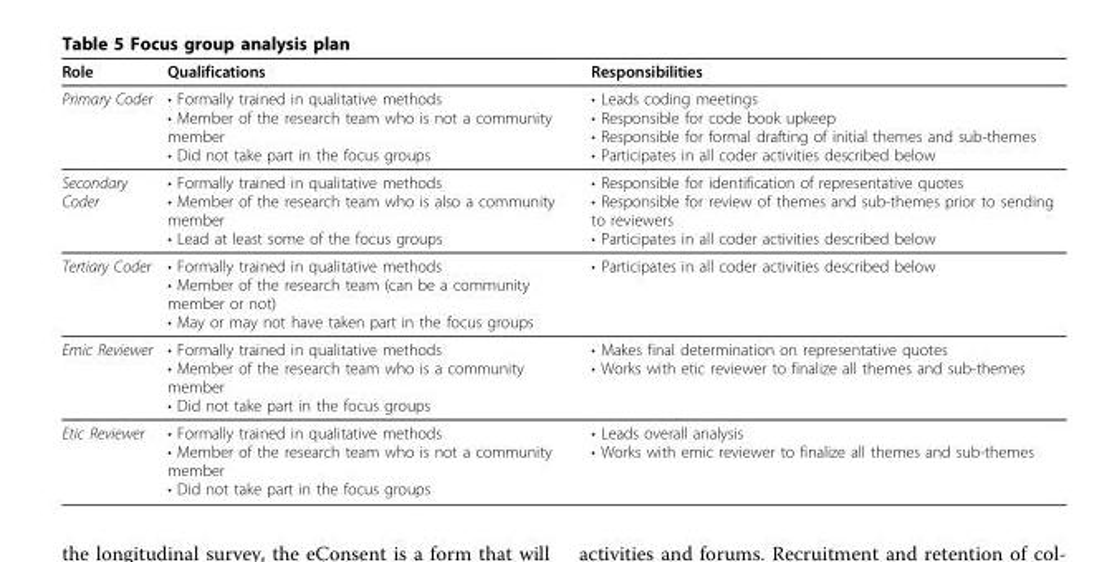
<table><thead><tr><td>Role</td><td>Qualifications</td><td>Responsibilities</td></tr></thead><tbody><tr><td>Primary Coder</td><td>• Formally trained in qualitative methods • Member of the research team who is not a community member • Did not take part in the focus groups</td><td>• Leads coding meetings • Responsible for code book upkeep • Responsible for formal drafting of initial themes and sub-themes • Participates in all coder activities described below</td></tr><tr><td>Secondary Coder</td><td>• Formally trained in qualitative methods • Member of the research team who is also a community member • Lead at least some of the focus groups</td><td>• Responsible for identification of representative quotes • Responsible for review of themes and sub-themes prior to sending to reviewers • Participates in all coder activities described below</td></tr><tr><td>Tertiary Coder</td><td>• Formally trained in qualitative methods • Member of the research team (can be a community member or not) • May or may not have taken part in the focus groups</td><td>• Participates in all coder activities described below</td></tr><tr><td>Emic Reviewer</td><td>• Formally trained in qualitative methods • Member of the research team who is a community member • Did not take part in the focus groups</td><td>• Makes final determination on representative quotes • Works with etic reviewer to finalize all themes and sub-themes</td></tr><tr><td>Etic Reviewer</td><td>• Formally trained in qualitative methods • Member of the research team who is not a community member • Did not take part in the focus groups</td><td>• Leads overall analysis • Works with emic reviewer to finalize all themes and sub-themes</td></tr></tbody></table>